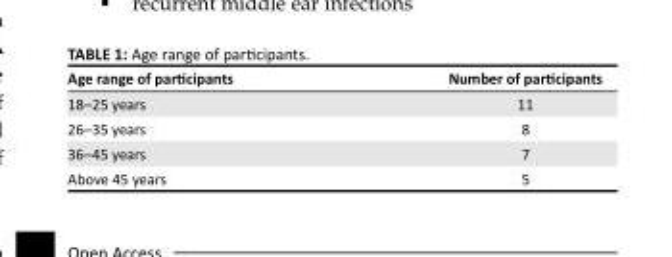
<table><thead><tr><td>Age range of participants</td><td>Number of participants</td></tr></thead><tbody><tr><td>18–25 years</td><td>11</td></tr><tr><td>26–35 years</td><td>8</td></tr><tr><td>36–45 years</td><td>7</td></tr><tr><td>Above 45 years</td><td>5</td></tr></tbody></table>